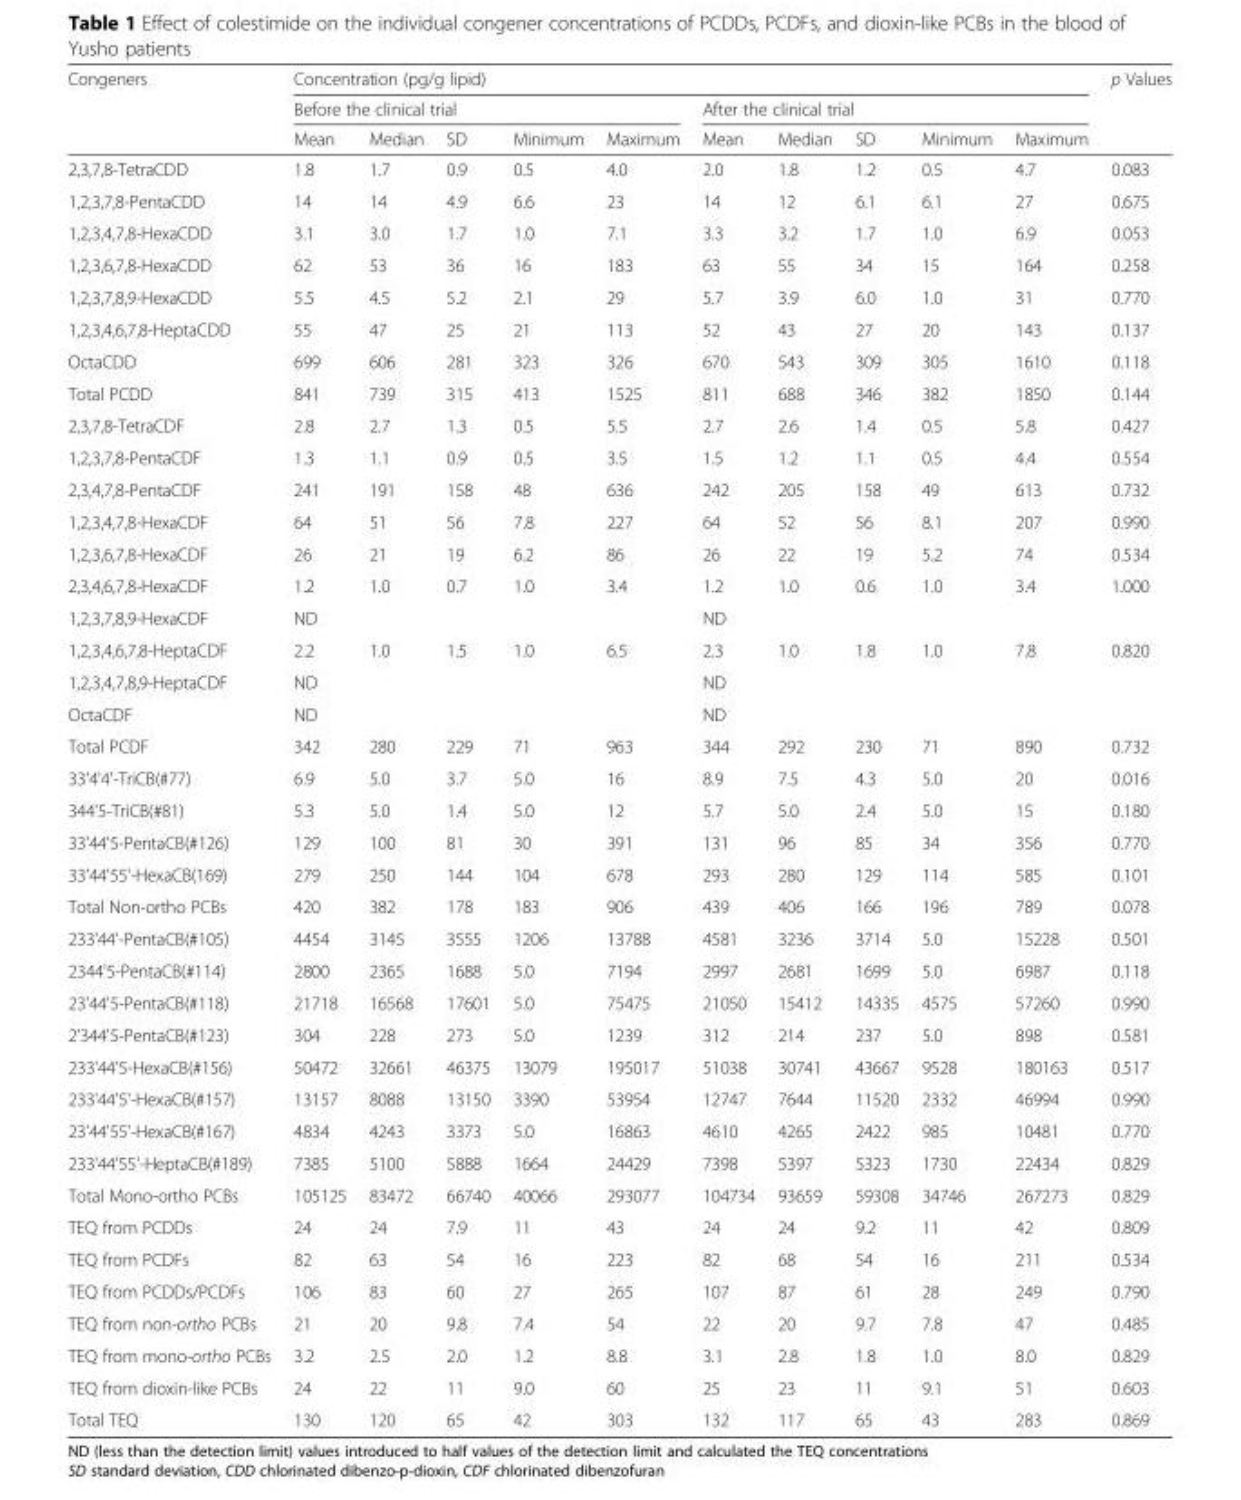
<table><thead><tr><td rowspan="3">Congeners</td><td colspan="10">Concentration (pg/g lipid)</td><td rowspan="3">p Values</td></tr><tr><td colspan="5">Before the clinical trial</td><td colspan="5">After the clinical trial</td></tr><tr><td>Mean</td><td>Median</td><td>SD</td><td>Minimum</td><td>Maximum</td><td>Mean</td><td>Median</td><td>SD</td><td>Minimum</td><td>Maximum</td></tr></thead><tbody><tr><td>2,3,7,8-TetraCDD</td><td>1.8</td><td>1.7</td><td>0.9</td><td>0.5</td><td>4.0</td><td>2.0</td><td>1.8</td><td>1.2</td><td>0.5</td><td>4.7</td><td>0.083</td></tr><tr><td>1,2,3,7,8-PentaCDD</td><td>14</td><td>14</td><td>4.9</td><td>6.6</td><td>23</td><td>14</td><td>12</td><td>6.1</td><td>6.1</td><td>27</td><td>0.675</td></tr><tr><td>1,2,3,4,7,8-HexaCDD</td><td>3.1</td><td>3.0</td><td>1.7</td><td>1.0</td><td>7.1</td><td>3.3</td><td>3.2</td><td>1.7</td><td>1.0</td><td>6.9</td><td>0.053</td></tr><tr><td>1,2,3,6,7,8-HexaCDD</td><td>62</td><td>53</td><td>36</td><td>16</td><td>183</td><td>63</td><td>55</td><td>34</td><td>15</td><td>164</td><td>0.258</td></tr><tr><td>1,2,3,7,8,9-HexaCDD</td><td>5.5</td><td>4.5</td><td>5.2</td><td>2.1</td><td>29</td><td>5.7</td><td>3.9</td><td>6.0</td><td>1.0</td><td>31</td><td>0.770</td></tr><tr><td>1,2,3,4,6,7,8-HeptaCDD</td><td>55</td><td>47</td><td>25</td><td>21</td><td>113</td><td>52</td><td>43</td><td>27</td><td>20</td><td>143</td><td>0.137</td></tr><tr><td>OctaCDD</td><td>699</td><td>606</td><td>281</td><td>323</td><td>326</td><td>670</td><td>543</td><td>309</td><td>305</td><td>1610</td><td>0.118</td></tr><tr><td>Total PCDD</td><td>841</td><td>739</td><td>315</td><td>413</td><td>1525</td><td>811</td><td>688</td><td>346</td><td>382</td><td>1850</td><td>0.144</td></tr><tr><td>2,3,7,8-TetraCDF</td><td>2.8</td><td>2.7</td><td>1.3</td><td>0.5</td><td>5.5</td><td>2.7</td><td>2.6</td><td>1.4</td><td>0.5</td><td>5.8</td><td>0.427</td></tr><tr><td>1,2,3,7,8-PentaCDF</td><td>1.3</td><td>1.1</td><td>0.9</td><td>0.5</td><td>3.5</td><td>1.5</td><td>1.2</td><td>1.1</td><td>0.5</td><td>4.4</td><td>0.554</td></tr><tr><td>2,3,4,7,8-PentaCDF</td><td>241</td><td>191</td><td>158</td><td>48</td><td>636</td><td>242</td><td>205</td><td>158</td><td>49</td><td>613</td><td>0.732</td></tr><tr><td>1,2,3,4,7,8-HexaCDF</td><td>64</td><td>51</td><td>56</td><td>7.8</td><td>227</td><td>64</td><td>52</td><td>56</td><td>8.1</td><td>207</td><td>0.990</td></tr><tr><td>1,2,3,6,7,8-HexaCDF</td><td>26</td><td>21</td><td>19</td><td>6.2</td><td>86</td><td>26</td><td>22</td><td>19</td><td>5.2</td><td>74</td><td>0.534</td></tr><tr><td>2,3,4,6,7,8-HexaCDF</td><td>1.2</td><td>1.0</td><td>0.7</td><td>1.0</td><td>3.4</td><td>1.2</td><td>1.0</td><td>0.6</td><td>1.0</td><td>3.4</td><td>1.000</td></tr><tr><td>1,2,3,7,8,9-HexaCDF</td><td>ND</td><td></td><td></td><td></td><td></td><td>ND</td><td></td><td></td><td></td><td></td><td></td></tr><tr><td>1,2,3,4,6,7,8-HeptaCDF</td><td>2.2</td><td>1.0</td><td>1.5</td><td>1.0</td><td>6.5</td><td>2.3</td><td>1.0</td><td>1.8</td><td>1.0</td><td>7.8</td><td>0.820</td></tr><tr><td>1,2,3,4,7,8,9-HeptaCDF</td><td>ND</td><td></td><td></td><td></td><td></td><td>ND</td><td></td><td></td><td></td><td></td><td></td></tr><tr><td>OctaCDF</td><td>ND</td><td></td><td></td><td></td><td></td><td>ND</td><td></td><td></td><td></td><td></td><td></td></tr><tr><td>Total PCDF</td><td>342</td><td>280</td><td>229</td><td>71</td><td>963</td><td>344</td><td>292</td><td>230</td><td>71</td><td>890</td><td>0.732</td></tr><tr><td>33&#x27;4&#x27;4&#x27;-TriCB(#77)</td><td>6.9</td><td>5.0</td><td>3.7</td><td>5.0</td><td>16</td><td>8.9</td><td>7.5</td><td>4.3</td><td>5.0</td><td>20</td><td>0.016</td></tr><tr><td>344&#x27;5-TriCB(#81)</td><td>5.3</td><td>5.0</td><td>1.4</td><td>5.0</td><td>12</td><td>5.7</td><td>5.0</td><td>2.4</td><td>5.0</td><td>15</td><td>0.180</td></tr><tr><td>33&#x27;44&#x27;5-PentaCB(#126)</td><td>129</td><td>100</td><td>81</td><td>30</td><td>391</td><td>131</td><td>96</td><td>85</td><td>34</td><td>356</td><td>0.770</td></tr><tr><td>33&#x27;44&#x27;55&#x27;-HexaCB(169)</td><td>279</td><td>250</td><td>144</td><td>104</td><td>678</td><td>293</td><td>280</td><td>129</td><td>114</td><td>585</td><td>0.101</td></tr><tr><td>Total Non-ortho PCBs</td><td>420</td><td>382</td><td>178</td><td>183</td><td>906</td><td>439</td><td>406</td><td>166</td><td>196</td><td>789</td><td>0.078</td></tr><tr><td>233&#x27;44&#x27;-PentaCB(#105)</td><td>4454</td><td>3145</td><td>3555</td><td>1206</td><td>13788</td><td>4581</td><td>3236</td><td>3714</td><td>5.0</td><td>15228</td><td>0.501</td></tr><tr><td>2344&#x27;5-PentaCB(#114)</td><td>2800</td><td>2365</td><td>1688</td><td>5.0</td><td>7194</td><td>2997</td><td>2681</td><td>1699</td><td>5.0</td><td>6987</td><td>0.118</td></tr><tr><td>23&#x27;44&#x27;5-PentaCB(#118)</td><td>21718</td><td>16568</td><td>17601</td><td>5.0</td><td>75475</td><td>21050</td><td>15412</td><td>14335</td><td>4575</td><td>57260</td><td>0.990</td></tr><tr><td>2&#x27;344&#x27;5-PentaCB(#123)</td><td>304</td><td>228</td><td>273</td><td>5.0</td><td>1239</td><td>312</td><td>214</td><td>237</td><td>5.0</td><td>898</td><td>0.581</td></tr><tr><td>233&#x27;44&#x27;5-HexaCB(#156)</td><td>50472</td><td>32661</td><td>46375</td><td>13079</td><td>195017</td><td>51038</td><td>30741</td><td>43667</td><td>9528</td><td>180163</td><td>0.517</td></tr><tr><td>233&#x27;44&#x27;5&#x27;-HexaCB(#157)</td><td>13157</td><td>8088</td><td>13150</td><td>3390</td><td>53954</td><td>12747</td><td>7644</td><td>11520</td><td>2332</td><td>46994</td><td>0.990</td></tr><tr><td>23&#x27;44&#x27;55&#x27;-HexaCB(#167)</td><td>4834</td><td>4243</td><td>3373</td><td>5.0</td><td>16863</td><td>4610</td><td>4265</td><td>2422</td><td>985</td><td>10481</td><td>0.770</td></tr><tr><td>233&#x27;44&#x27;55&#x27;-HeptaCB(#189)</td><td>7385</td><td>5100</td><td>5888</td><td>1664</td><td>24429</td><td>7398</td><td>5397</td><td>5323</td><td>1730</td><td>22434</td><td>0.829</td></tr><tr><td>Total Mono-ortho PCBs</td><td>105125</td><td>83472</td><td>66740</td><td>40066</td><td>293077</td><td>104734</td><td>93659</td><td>59308</td><td>34746</td><td>267273</td><td>0.829</td></tr><tr><td>TEQ from PCDDs</td><td>24</td><td>24</td><td>7.9</td><td>11</td><td>43</td><td>24</td><td>24</td><td>9.2</td><td>11</td><td>42</td><td>0.809</td></tr><tr><td>TEQ from PCDFs</td><td>82</td><td>63</td><td>54</td><td>16</td><td>223</td><td>82</td><td>68</td><td>54</td><td>16</td><td>211</td><td>0.534</td></tr><tr><td>TEQ from PCDDs/PCDFs</td><td>106</td><td>83</td><td>60</td><td>27</td><td>265</td><td>107</td><td>87</td><td>61</td><td>28</td><td>249</td><td>0.790</td></tr><tr><td>TEQ from non-ortho PCBs</td><td>21</td><td>20</td><td>9.8</td><td>7.4</td><td>54</td><td>22</td><td>20</td><td>9.7</td><td>7.8</td><td>47</td><td>0.485</td></tr><tr><td>TEQ from mono-ortho PCBs</td><td>3.2</td><td>2.5</td><td>2.0</td><td>1.2</td><td>8.8</td><td>3.1</td><td>2.8</td><td>1.8</td><td>1.0</td><td>8.0</td><td>0.829</td></tr><tr><td>TEQ from dioxin-like PCBs</td><td>24</td><td>22</td><td>11</td><td>9.0</td><td>60</td><td>25</td><td>23</td><td>11</td><td>9.1</td><td>51</td><td>0.603</td></tr><tr><td>Total TEQ</td><td>130</td><td>120</td><td>65</td><td>42</td><td>303</td><td>132</td><td>117</td><td>65</td><td>43</td><td>283</td><td>0.869</td></tr></tbody></table>